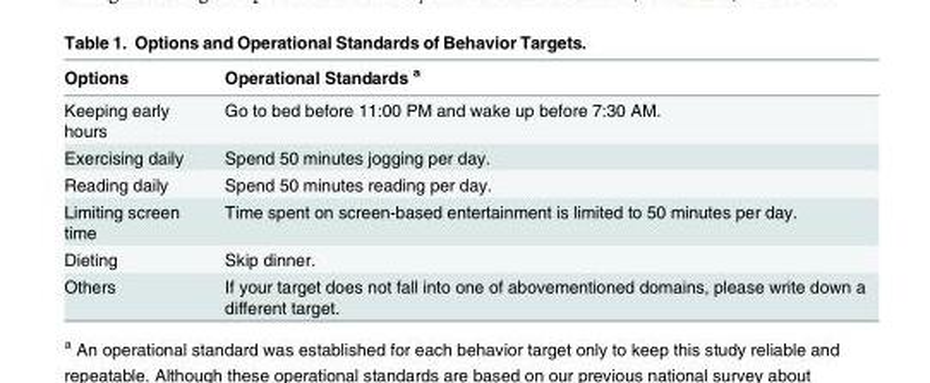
<table><thead><tr><td>Options</td><td>Operational Standards <sup>a</sup></td></tr></thead><tbody><tr><td>Keeping early hours</td><td>Go to bed before 11:00 PM and wake up before 7:30 AM.</td></tr><tr><td>Exercising daily</td><td>Spend 50 minutes jogging per day.</td></tr><tr><td>Reading daily</td><td>Spend 50 minutes reading per day.</td></tr><tr><td>Limiting screen time</td><td>Time spent on screen-based entertainment is limited to 50 minutes per day.</td></tr><tr><td>Dieting</td><td>Skip dinner.</td></tr><tr><td>Others</td><td>If your target does not fall into one of abovementioned domains, please write down a different target.</td></tr></tbody></table>